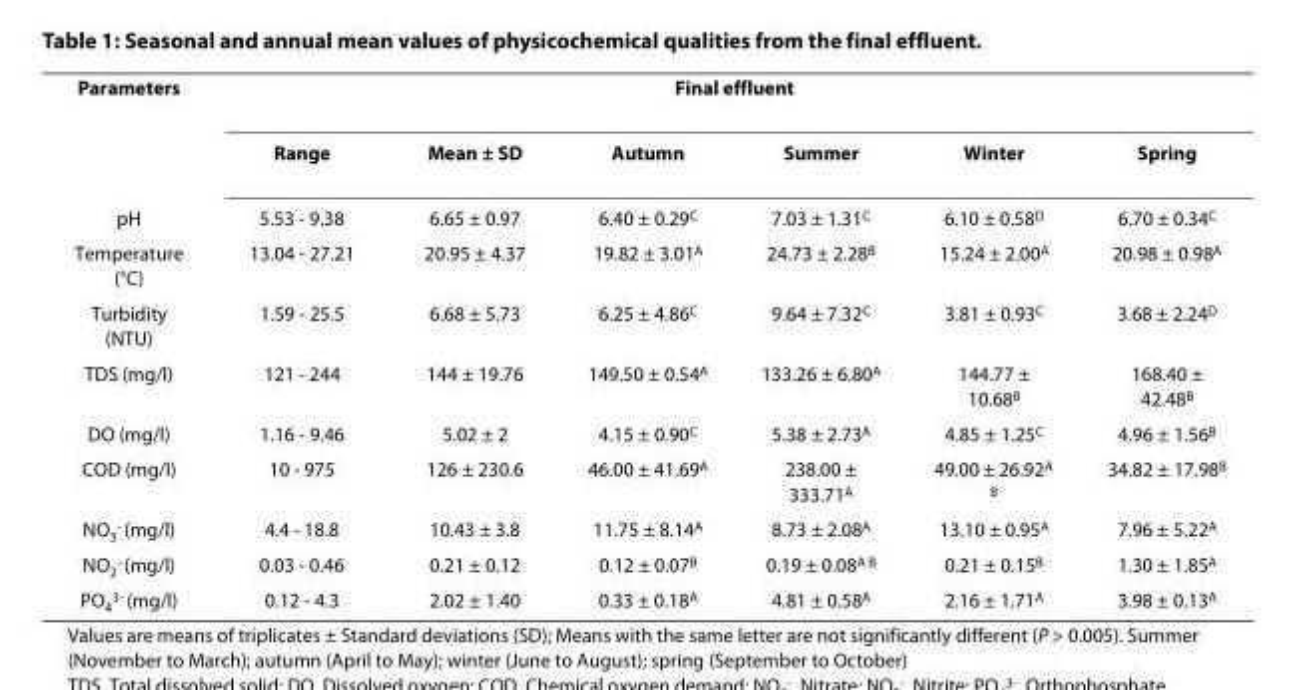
<table><tbody><tr><td rowspan="2">Parameters</td><td colspan="6">Final effluent</td></tr><tr><td>Range</td><td>Mean ± SD</td><td>Autumn</td><td>Summer</td><td>Winter</td><td>Spring</td></tr><tr><td>pH</td><td>5.53 - 9.38</td><td>6.65 ± 0.97</td><td>6.40 ± 0.29<sup>C</sup></td><td>7.03 ± 1.31<sup>C</sup></td><td>6.10 ± 0.58<sup>D</sup></td><td>6.70 ± 0.34<sup>C</sup></td></tr><tr><td>Temperature (°C)</td><td>13.04 - 27.21</td><td>20.95 ± 4.37</td><td>19.82 ± 3.01<sup>A</sup></td><td>24.73 ± 2.28<sup>B</sup></td><td>15.24 ± 2.00<sup>A</sup></td><td>20.98 ± 0.98<sup>A</sup></td></tr><tr><td>Turbidity (NTU)</td><td>1.59 - 25.5</td><td>6.68 ± 5.73</td><td>6.25 ± 4.86<sup>C</sup></td><td>9.64 ± 7.32<sup>C</sup></td><td>3.81 ± 0.93<sup>C</sup></td><td>3.68 ± 2.24<sup>D</sup></td></tr><tr><td>TDS (mg/l)</td><td>121 - 244</td><td>144 ± 19.76</td><td>149.50 ± 0.54<sup>A</sup></td><td>133.26 ± 6.80<sup>A</sup></td><td>144.77 ± 10.68<sup>B</sup></td><td>168.40 ± 42.48<sup>B</sup></td></tr><tr><td>DO (mg/l)</td><td>1.16 - 9.46</td><td>5.02 ± 2</td><td>4.15 ± 0.90<sup>C</sup></td><td>5.38 ± 2.73<sup>A</sup></td><td>4.85 ± 1.25<sup>C</sup></td><td>4.96 ± 1.56<sup>B</sup></td></tr><tr><td>COD (mg/l)</td><td>10 - 975</td><td>126 ± 230.6</td><td>46.00 ± 41.69<sup>A</sup></td><td>238.00 ± 333.71<sup>A</sup></td><td>49.00 ± 26.92<sup>A B</sup></td><td>34.82 ± 17.98<sup>B</sup></td></tr><tr><td>NO<sub>3</sub><sup>-</sup> (mg/l)</td><td>4.4 - 18.8</td><td>10.43 ± 3.8</td><td>11.75 ± 8.14<sup>A</sup></td><td>8.73 ± 2.08<sup>A</sup></td><td>13.10 ± 0.95<sup>A</sup></td><td>7.96 ± 5.22<sup>A</sup></td></tr><tr><td>NO<sub>2</sub><sup>-</sup> (mg/l)</td><td>0.03 - 0.46</td><td>0.21 ± 0.12</td><td>0.12 ± 0.07<sup>B</sup></td><td>0.19 ± 0.08<sup>A B</sup></td><td>0.21 ± 0.15<sup>B</sup></td><td>1.30 ± 1.85<sup>A</sup></td></tr><tr><td>PO<sub>4</sub><sup>3-</sup> (mg/l)</td><td>0.12 - 4.3</td><td>2.02 ± 1.40</td><td>0.33 ± 0.18<sup>A</sup></td><td>4.81 ± 0.58<sup>A</sup></td><td>2.16 ± 1.71<sup>A</sup></td><td>3.98 ± 0.13<sup>A</sup></td></tr></tbody></table>